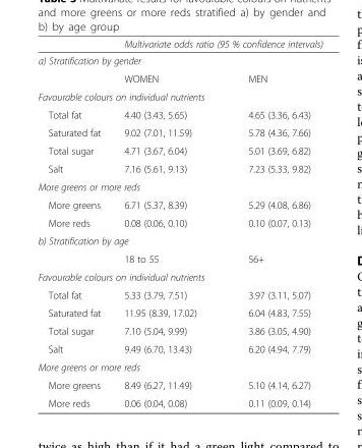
<table><thead><tr><td></td><td colspan="2">Multivariate odds ratio (95 % confidence intervals)</td></tr><tr><td colspan="3">a) Stratification by gender</td></tr><tr><td></td><td>WOMEN</td><td>MEN</td></tr></thead><tbody><tr><td colspan="3">Favourable colours on individual nutrients</td></tr><tr><td>Total fat</td><td>4.40 (3.43, 5.65)</td><td>4.65 (3.36, 6.43)</td></tr><tr><td>Saturated fat</td><td>9.02 (7.01, 11.59)</td><td>5.78 (4.36, 7.66)</td></tr><tr><td>Total sugar</td><td>4.71 (3.67, 6.04)</td><td>5.01 (3.69, 6.82)</td></tr><tr><td>Salt</td><td>7.16 (5.61, 9.13)</td><td>7.23 (5.33, 9.82)</td></tr><tr><td colspan="3">More greens or more reds</td></tr><tr><td>More greens</td><td>6.71 (5.37, 8.39)</td><td>5.29 (4.08, 6.86)</td></tr><tr><td>More reds</td><td>0.08 (0.06, 0.10)</td><td>0.10 (0.07, 0.13)</td></tr><tr><td colspan="3">b) Stratification by age</td></tr><tr><td></td><td>18 to 55</td><td>56+</td></tr><tr><td colspan="3">Favourable colours on individual nutrients</td></tr><tr><td>Total fat</td><td>5.33 (3.79, 7.51)</td><td>3.97 (3.11, 5.07)</td></tr><tr><td>Saturated fat</td><td>11.95 (8.39, 17.02)</td><td>6.04 (4.83, 7.55)</td></tr><tr><td>Total sugar</td><td>7.10 (5.04, 9.99)</td><td>3.86 (3.05, 4.90)</td></tr><tr><td>Salt</td><td>9.49 (6.70, 13.43)</td><td>6.20 (4.94, 7.79)</td></tr><tr><td colspan="3">More greens or more reds</td></tr><tr><td>More greens</td><td>8.49 (6.27, 11.49)</td><td>5.10 (4.14, 6.27)</td></tr><tr><td>More reds</td><td>0.06 (0.04, 0.08)</td><td>0.11 (0.09, 0.14)</td></tr></tbody></table>